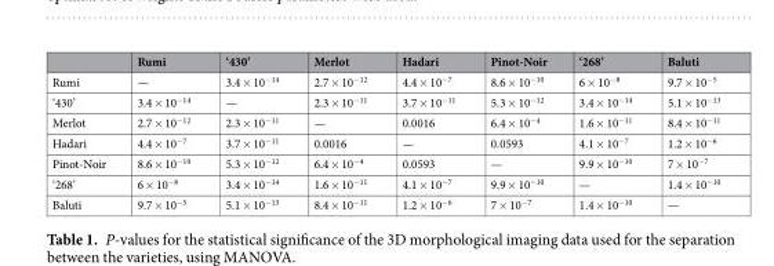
<table><thead><tr><td></td><td>Rumi</td><td>‘430’</td><td>Merlot</td><td>Hadari</td><td>Pinot-Noir</td><td>‘268’</td><td>Baluti</td></tr></thead><tbody><tr><td>Rumi</td><td>—</td><td>3.4 × 10<sup>−14</sup></td><td>2.7 × 10<sup>−12</sup></td><td>4.4 × 10<sup>−7</sup></td><td>8.6 × 10<sup>−10</sup></td><td>6 × 10<sup>−8</sup></td><td>9.7 × 10<sup>−5</sup></td></tr><tr><td>‘430’</td><td>3.4 × 10<sup>−14</sup></td><td>—</td><td>2.3 × 10<sup>−11</sup></td><td>3.7 × 10<sup>−11</sup></td><td>5.3 × 10<sup>−12</sup></td><td>3.4 × 10<sup>−14</sup></td><td>5.1 × 10<sup>−13</sup></td></tr><tr><td>Merlot</td><td>2.7 × 10<sup>−12</sup></td><td>2.3 × 10<sup>−11</sup></td><td>—</td><td>0.0016</td><td>6.4 × 10<sup>−4</sup></td><td>1.6 × 10<sup>−11</sup></td><td>8.4 × 10<sup>−11</sup></td></tr><tr><td>Hadari</td><td>4.4 × 10<sup>−7</sup></td><td>3.7 × 10<sup>−11</sup></td><td>0.0016</td><td>—</td><td>0.0593</td><td>4.1 × 10<sup>−7</sup></td><td>1.2 × 10<sup>−6</sup></td></tr><tr><td>Pinot-Noir</td><td>8.6 × 10<sup>−10</sup></td><td>5.3 × 10<sup>−12</sup></td><td>6.4 × 10<sup>−4</sup></td><td>0.0593</td><td>—</td><td>9.9 × 10<sup>−10</sup></td><td>7 × 10<sup>−7</sup></td></tr><tr><td>‘268’</td><td>6 × 10<sup>−8</sup></td><td>3.4 × 10<sup>−14</sup></td><td>1.6 × 10<sup>−11</sup></td><td>4.1 × 10<sup>−7</sup></td><td>9.9 × 10<sup>−10</sup></td><td>—</td><td>1.4 × 10<sup>−10</sup></td></tr><tr><td>Baluti</td><td>9.7 × 10<sup>−5</sup></td><td>5.1 × 10<sup>−13</sup></td><td>8.4 × 10<sup>−11</sup></td><td>1.2 × 10<sup>−6</sup></td><td>7 × 10<sup>−7</sup></td><td>1.4 × 10<sup>−10</sup></td><td>—</td></tr></tbody></table>